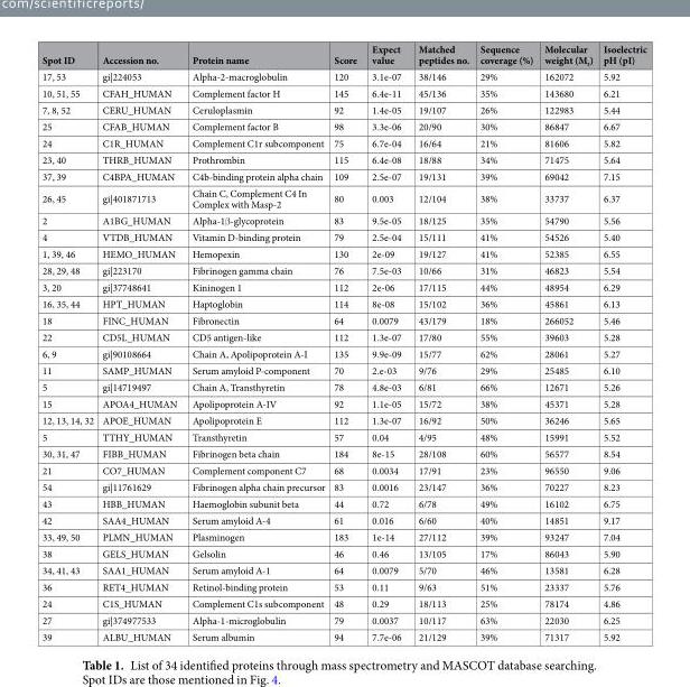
<table><thead><tr><td>Spot ID</td><td>Accession no.</td><td>Protein name</td><td>Score</td><td>Expect value</td><td>Matched peptides no.</td><td>Sequence coverage (%)</td><td>Molecular weight (M<sub>r</sub>)</td><td>Isoelectric pH (pI)</td></tr></thead><tbody><tr><td>17, 53</td><td>gi|224053</td><td>Alpha-2-macroglobulin</td><td>120</td><td>3.1e-07</td><td>38/146</td><td>29%</td><td>162072</td><td>5.92</td></tr><tr><td>10, 51, 55</td><td>CFAH_HUMAN</td><td>Complement factor H</td><td>145</td><td>6.4e-11</td><td>45/136</td><td>35%</td><td>143680</td><td>6.21</td></tr><tr><td>7, 8, 52</td><td>CERU_HUMAN</td><td>Ceruloplasmin</td><td>92</td><td>1.4e-05</td><td>19/107</td><td>26%</td><td>122983</td><td>5.44</td></tr><tr><td>25</td><td>CFAB_HUMAN</td><td>Complement factor B</td><td>98</td><td>3.3e-06</td><td>20/90</td><td>30%</td><td>86847</td><td>6.67</td></tr><tr><td>24</td><td>C1R_HUMAN</td><td>Complement C1r subcomponent</td><td>75</td><td>6.7e-04</td><td>16/64</td><td>21%</td><td>81606</td><td>5.82</td></tr><tr><td>23, 40</td><td>THRB_HUMAN</td><td>Prothrombin</td><td>115</td><td>6.4e-08</td><td>18/88</td><td>34%</td><td>71475</td><td>5.64</td></tr><tr><td>37, 39</td><td>C4BPA_HUMAN</td><td>C4b-binding protein alpha chain</td><td>109</td><td>2.5e-07</td><td>19/131</td><td>39%</td><td>69042</td><td>7.15</td></tr><tr><td>26, 45</td><td>gi|401871713</td><td>Chain C, Complement C4 In Complex with Masp-2</td><td>80</td><td>0.003</td><td>12/104</td><td>38%</td><td>33737</td><td>6.37</td></tr><tr><td>2</td><td>A1BG_HUMAN</td><td>Alpha-1β-glycoprotein</td><td>83</td><td>9.5e-05</td><td>18/125</td><td>35%</td><td>54790</td><td>5.56</td></tr><tr><td>4</td><td>VTDB_HUMAN</td><td>Vitamin D-binding protein</td><td>79</td><td>2.5e-04</td><td>15/111</td><td>41%</td><td>54526</td><td>5.40</td></tr><tr><td>1, 39, 46</td><td>HEMO_HUMAN</td><td>Hemopexin</td><td>130</td><td>2e-09</td><td>19/127</td><td>41%</td><td>52385</td><td>6.55</td></tr><tr><td>28, 29, 48</td><td>gi|223170</td><td>Fibrinogen gamma chain</td><td>76</td><td>7.5e-03</td><td>10/66</td><td>31%</td><td>46823</td><td>5.54</td></tr><tr><td>3, 20</td><td>gi|37748641</td><td>Kininogen 1</td><td>112</td><td>2e-06</td><td>17/115</td><td>44%</td><td>48954</td><td>6.29</td></tr><tr><td>16, 35, 44</td><td>HPT_HUMAN</td><td>Haptoglobin</td><td>114</td><td>8e-08</td><td>15/102</td><td>36%</td><td>45861</td><td>6.13</td></tr><tr><td>18</td><td>FINC_HUMAN</td><td>Fibronectin</td><td>64</td><td>0.0079</td><td>43/179</td><td>18%</td><td>266052</td><td>5.46</td></tr><tr><td>22</td><td>CD5L_HUMAN</td><td>CD5 antigen-like</td><td>112</td><td>1.3e-07</td><td>17/80</td><td>55%</td><td>39603</td><td>5.28</td></tr><tr><td>6, 9</td><td>gi|90108664</td><td>Chain A, Apolipoprotein A-I</td><td>135</td><td>9.9e-09</td><td>15/77</td><td>62%</td><td>28061</td><td>5.27</td></tr><tr><td>11</td><td>SAMP_HUMAN</td><td>Serum amyloid P-component</td><td>70</td><td>2.e-03</td><td>9/76</td><td>29%</td><td>25485</td><td>6.10</td></tr><tr><td>5</td><td>gi|14719497</td><td>Chain A, Transthyretin</td><td>78</td><td>4.8e-03</td><td>6/81</td><td>66%</td><td>12671</td><td>5.26</td></tr><tr><td>15</td><td>APOA4_HUMAN</td><td>Apolipoprotein A-IV</td><td>92</td><td>1.1e-05</td><td>15/72</td><td>38%</td><td>45371</td><td>5.28</td></tr><tr><td>12, 13, 14, 32</td><td>APOE_HUMAN</td><td>Apolipoprotein E</td><td>112</td><td>1.3e-07</td><td>16/92</td><td>50%</td><td>36246</td><td>5.65</td></tr><tr><td>5</td><td>TTHY_HUMAN</td><td>Transthyretin</td><td>57</td><td>0.04</td><td>4/95</td><td>48%</td><td>15991</td><td>5.52</td></tr><tr><td>30, 31, 47</td><td>FIBB_HUMAN</td><td>Fibrinogen beta chain</td><td>184</td><td>8e-15</td><td>28/108</td><td>60%</td><td>56577</td><td>8.54</td></tr><tr><td>21</td><td>CO7_HUMAN</td><td>Complement component C7</td><td>68</td><td>0.0034</td><td>17/91</td><td>23%</td><td>96550</td><td>9.06</td></tr><tr><td>54</td><td>gi|11761629</td><td>Fibrinogen alpha chain precursor</td><td>83</td><td>0.0016</td><td>23/147</td><td>36%</td><td>70227</td><td>8.23</td></tr><tr><td>43</td><td>HBB_HUMAN</td><td>Haemoglobin subunit beta</td><td>44</td><td>0.72</td><td>6/78</td><td>49%</td><td>16102</td><td>6.75</td></tr><tr><td>42</td><td>SAA4_HUMAN</td><td>Serum amyloid A-4</td><td>61</td><td>0.016</td><td>6/60</td><td>40%</td><td>14851</td><td>9.17</td></tr><tr><td>33, 49, 50</td><td>PLMN_HUMAN</td><td>Plasminogen</td><td>183</td><td>1e-14</td><td>27/112</td><td>39%</td><td>93247</td><td>7.04</td></tr><tr><td>38</td><td>GELS_HUMAN</td><td>Gelsolin</td><td>46</td><td>0.46</td><td>13/105</td><td>17%</td><td>86043</td><td>5.90</td></tr><tr><td>34, 41, 43</td><td>SAA1_HUMAN</td><td>Serum amyloid A-1</td><td>64</td><td>0.0079</td><td>5/70</td><td>46%</td><td>13581</td><td>6.28</td></tr><tr><td>36</td><td>RET4_HUMAN</td><td>Retinol-binding protein</td><td>53</td><td>0.11</td><td>9/63</td><td>51%</td><td>23337</td><td>5.76</td></tr><tr><td>24</td><td>C1S_HUMAN</td><td>Complement C1s subcomponent</td><td>48</td><td>0.29</td><td>18/113</td><td>25%</td><td>78174</td><td>4.86</td></tr><tr><td>27</td><td>gi|374977533</td><td>Alpha-1-microglobulin</td><td>79</td><td>0.0037</td><td>10/117</td><td>63%</td><td>22030</td><td>6.25</td></tr><tr><td>39</td><td>ALBU_HUMAN</td><td>Serum albumin</td><td>94</td><td>7.7e-06</td><td>21/129</td><td>39%</td><td>71317</td><td>5.92</td></tr></tbody></table>